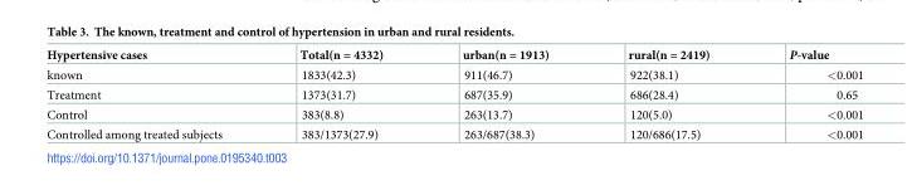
<table><thead><tr><td>Hypertensive cases</td><td>Total(n = 4332)</td><td>urban(n = 1913)</td><td>rural(n = 2419)</td><td>P-value</td></tr></thead><tbody><tr><td>known</td><td>1833(42.3)</td><td>911(46.7)</td><td>922(38.1)</td><td>&lt;0.001</td></tr><tr><td>Treatment</td><td>1373(31.7)</td><td>687(35.9)</td><td>686(28.4)</td><td>0.65</td></tr><tr><td>Control</td><td>383(8.8)</td><td>263(13.7)</td><td>120(5.0)</td><td>&lt;0.001</td></tr><tr><td>Controlled among treated subjects</td><td>383/1373(27.9)</td><td>263/687(38.3)</td><td>120/686(17.5)</td><td>&lt;0.001</td></tr></tbody></table>